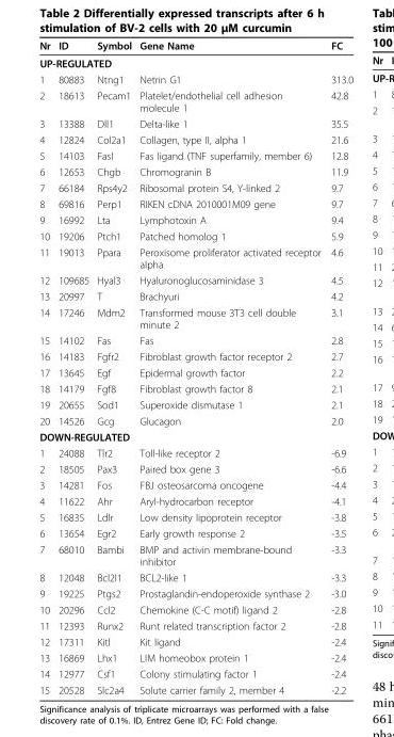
<table><thead><tr><td>Nr</td><td>ID</td><td>Symbol</td><td>Gene Name</td><td>FC</td></tr></thead><tbody><tr><td colspan="5">UP-REGULATED</td></tr><tr><td>1</td><td>80883</td><td>Ntng1</td><td>Netrin G1</td><td>313.0</td></tr><tr><td>2</td><td>18613</td><td>Pecam1</td><td>Platelet/endothelial cell adhesion molecule 1</td><td>42.8</td></tr><tr><td>3</td><td>13388</td><td>Dll1</td><td>Delta-like 1</td><td>35.5</td></tr><tr><td>4</td><td>12824</td><td>Col2a1</td><td>Collagen, type II, alpha 1</td><td>21.6</td></tr><tr><td>5</td><td>14103</td><td>Fasl</td><td>Fas ligand (TNF superfamily, member 6)</td><td>12.8</td></tr><tr><td>6</td><td>12653</td><td>Chgb</td><td>Chromogranin B</td><td>11.9</td></tr><tr><td>7</td><td>66184</td><td>Rps4y2</td><td>Ribosomal protein S4, Y-linked 2</td><td>9.7</td></tr><tr><td>8</td><td>69816</td><td>Perp1</td><td>RIKEN cDNA 2010001M09 gene</td><td>9.7</td></tr><tr><td>9</td><td>16992</td><td>Lta</td><td>Lymphotoxin A</td><td>9.4</td></tr><tr><td>10</td><td>19206</td><td>Ptch1</td><td>Patched homolog 1</td><td>5.9</td></tr><tr><td>11</td><td>19013</td><td>Ppara</td><td>Peroxisome proliferator activated receptor alpha</td><td>4.6</td></tr><tr><td>12</td><td>109685</td><td>Hyal3</td><td>Hyaluronoglucosaminidase 3</td><td>4.5</td></tr><tr><td>13</td><td>20997</td><td>T</td><td>Brachyuri</td><td>4.2</td></tr><tr><td>14</td><td>17246</td><td>Mdm2</td><td>Transformed mouse 3T3 cell double minute 2</td><td>3.1</td></tr><tr><td>15</td><td>14102</td><td>Fas</td><td>Fas</td><td>2.8</td></tr><tr><td>16</td><td>14183</td><td>Fgfr2</td><td>Fibroblast growth factor receptor 2</td><td>2.7</td></tr><tr><td>17</td><td>13645</td><td>Egf</td><td>Epidermal growth factor</td><td>2.2</td></tr><tr><td>18</td><td>14179</td><td>Fgf8</td><td>Fibroblast growth factor 8</td><td>2.1</td></tr><tr><td>19</td><td>20655</td><td>Sod1</td><td>Superoxide dismutase 1</td><td>2.1</td></tr><tr><td>20</td><td>14526</td><td>Gcg</td><td>Glucagon</td><td>2.0</td></tr><tr><td colspan="5">DOWN-REGULATED</td></tr><tr><td>1</td><td>24088</td><td>Tlr2</td><td>Toll-like receptor 2</td><td>-6.9</td></tr><tr><td>2</td><td>18505</td><td>Pax3</td><td>Paired box gene 3</td><td>-6.6</td></tr><tr><td>3</td><td>14281</td><td>Fos</td><td>FBJ osteosarcoma oncogene</td><td>-4.4</td></tr><tr><td>4</td><td>11622</td><td>Ahr</td><td>Aryl-hydrocarbon receptor</td><td>-4.1</td></tr><tr><td>5</td><td>16835</td><td>Ldlr</td><td>Low density lipoprotein receptor</td><td>-3.8</td></tr><tr><td>6</td><td>13654</td><td>Egr2</td><td>Early growth response 2</td><td>-3.5</td></tr><tr><td>7</td><td>68010</td><td>Bambi</td><td>BMP and activin membrane-bound inhibitor</td><td>-3.3</td></tr><tr><td>8</td><td>12048</td><td>Bcl2l1</td><td>BCL2-like 1</td><td>-3.3</td></tr><tr><td>9</td><td>19225</td><td>Ptgs2</td><td>Prostaglandin-endoperoxide synthase 2</td><td>-3.0</td></tr><tr><td>10</td><td>20296</td><td>Ccl2</td><td>Chemokine (C-C motif) ligand 2</td><td>-2.8</td></tr><tr><td>11</td><td>12393</td><td>Runx2</td><td>Runt related transcription factor 2</td><td>-2.8</td></tr><tr><td>12</td><td>17311</td><td>Kitl</td><td>Kit ligand</td><td>-2.4</td></tr><tr><td>13</td><td>16869</td><td>Lhx1</td><td>LIM homeobox protein 1</td><td>-2.4</td></tr><tr><td>14</td><td>12977</td><td>Csf1</td><td>Colony stimulating factor 1</td><td>-2.4</td></tr><tr><td>15</td><td>20528</td><td>Slc2a4</td><td>Solute carrier family 2, member 4</td><td>-2.2</td></tr></tbody></table>